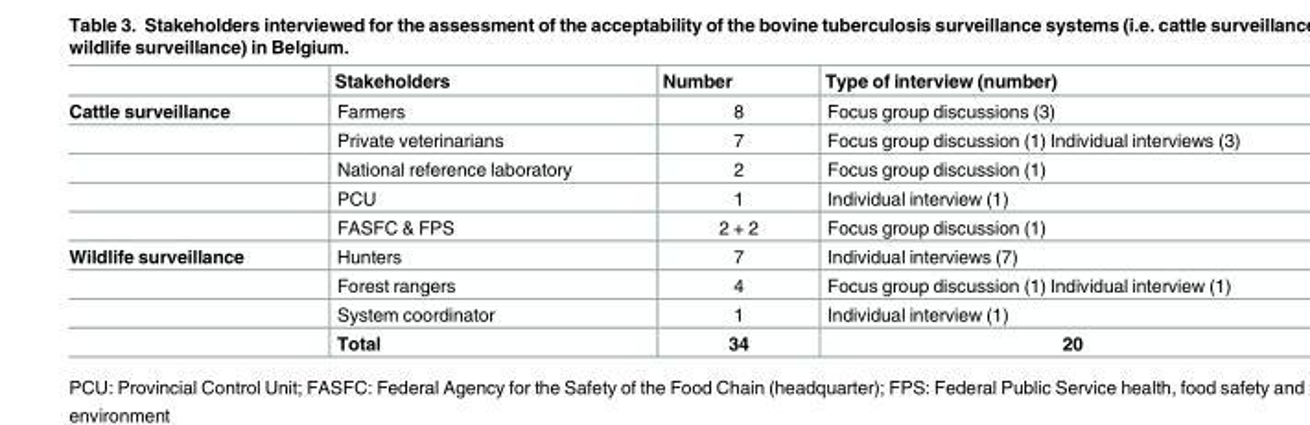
<table><thead><tr><td></td><td>Stakeholders</td><td>Number</td><td>Type of interview (number)</td></tr></thead><tbody><tr><td rowspan="5">Cattle surveillance</td><td>Farmers</td><td>8</td><td>Focus group discussions (3)</td></tr><tr><td>Private veterinarians</td><td>7</td><td>Focus group discussion (1) Individual interviews (3)</td></tr><tr><td>National reference laboratory</td><td>2</td><td>Focus group discussion (1)</td></tr><tr><td>PCU</td><td>1</td><td>Individual interview (1)</td></tr><tr><td>FASFC &amp; FPS</td><td>2 + 2</td><td>Focus group discussion (1)</td></tr><tr><td rowspan="4">Wildlife surveillance</td><td>Hunters</td><td>7</td><td>Individual interviews (7)</td></tr><tr><td>Forest rangers</td><td>4</td><td>Focus group discussion (1) Individual interview (1)</td></tr><tr><td>System coordinator</td><td>1</td><td>Individual interview (1)</td></tr><tr><td>Total</td><td>34</td><td>20</td></tr></tbody></table>